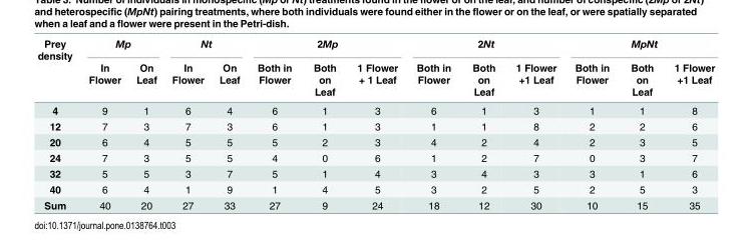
<table><thead><tr><td rowspan="2">Prey density</td><td colspan="2">Mp</td><td colspan="2">Nt</td><td colspan="3">2Mp</td><td colspan="3">2Nt</td><td colspan="3">MpNt</td></tr><tr><td>In Flower</td><td>On Leaf</td><td>In Flower</td><td>On Leaf</td><td>Both in Flower</td><td>Both on Leaf</td><td>1 Flower + 1 Leaf</td><td>Both in Flower</td><td>Both on Leaf</td><td>1 Flower +1 Leaf</td><td>Both in Flower</td><td>Both on Leaf</td><td>1 Flower +1 Leaf</td></tr></thead><tbody><tr><td>4</td><td>9</td><td>1</td><td>6</td><td>4</td><td>6</td><td>1</td><td>3</td><td>6</td><td>1</td><td>3</td><td>1</td><td>1</td><td>8</td></tr><tr><td>12</td><td>7</td><td>3</td><td>7</td><td>3</td><td>6</td><td>1</td><td>3</td><td>1</td><td>1</td><td>8</td><td>2</td><td>2</td><td>6</td></tr><tr><td>20</td><td>6</td><td>4</td><td>5</td><td>5</td><td>5</td><td>2</td><td>3</td><td>4</td><td>2</td><td>4</td><td>2</td><td>3</td><td>5</td></tr><tr><td>24</td><td>7</td><td>3</td><td>5</td><td>5</td><td>4</td><td>0</td><td>6</td><td>1</td><td>2</td><td>7</td><td>0</td><td>3</td><td>7</td></tr><tr><td>32</td><td>5</td><td>5</td><td>3</td><td>7</td><td>5</td><td>1</td><td>4</td><td>3</td><td>4</td><td>3</td><td>3</td><td>1</td><td>6</td></tr><tr><td>40</td><td>6</td><td>4</td><td>1</td><td>9</td><td>1</td><td>4</td><td>5</td><td>3</td><td>2</td><td>5</td><td>2</td><td>5</td><td>3</td></tr><tr><td>Sum</td><td>40</td><td>20</td><td>27</td><td>33</td><td>27</td><td>9</td><td>24</td><td>18</td><td>12</td><td>30</td><td>10</td><td>15</td><td>35</td></tr></tbody></table>